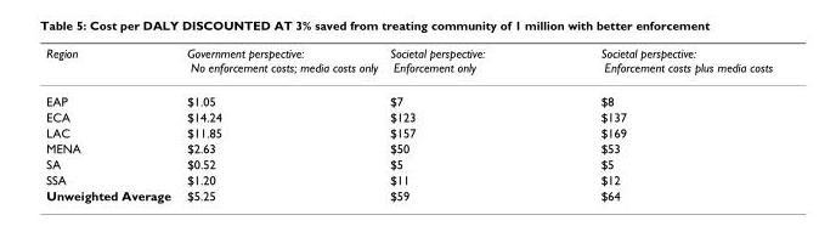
<table><thead><tr><td>Region</td><td>Government perspective: No enforcement costs; media costs only</td><td>Societal perspective: Enforcement only</td><td>Societal perspective: Enforcement costs plus media costs</td></tr></thead><tbody><tr><td>EAP</td><td>$1.05</td><td>$7</td><td>$8</td></tr><tr><td>ECA</td><td>$14.24</td><td>$123</td><td>$137</td></tr><tr><td>LAC</td><td>$11.85</td><td>$157</td><td>$169</td></tr><tr><td>MENA</td><td>$2.63</td><td>$50</td><td>$53</td></tr><tr><td>SA</td><td>$0.52</td><td>$5</td><td>$5</td></tr><tr><td>SSA</td><td>$1.20</td><td>$11</td><td>$12</td></tr><tr><td>Unweighted Average</td><td>$5.25</td><td>$59</td><td>$64</td></tr></tbody></table>